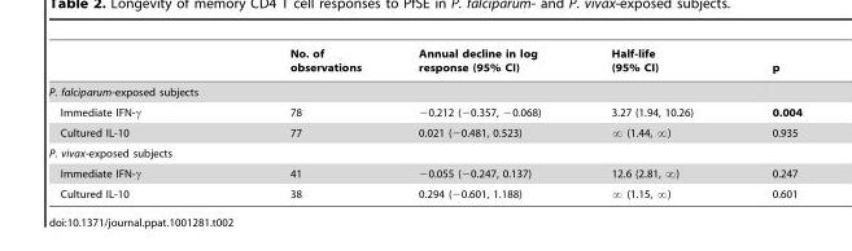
<table><thead><tr><td></td><td>No. of observations</td><td>Annual decline in log response (95% CI)</td><td>Half-life (95% CI)</td><td>p</td></tr></thead><tbody><tr><td colspan="5">P. falciparum-exposed subjects</td></tr><tr><td>Immediate IFN-γ</td><td>78</td><td>−0.212 (−0.357, −0.068)</td><td>3.27 (1.94, 10.26)</td><td>0.004</td></tr><tr><td>Cultured IL-10</td><td>77</td><td>0.021 (−0.481, 0.523)</td><td>? (1.44, ?)</td><td>0.935</td></tr><tr><td colspan="5">P. vivax-exposed subjects</td></tr><tr><td>Immediate IFN-γ</td><td>41</td><td>−0.055 (−0.247, 0.137)</td><td>12.6 (2.81, ?)</td><td>0.247</td></tr><tr><td>Cultured IL-10</td><td>38</td><td>0.294 (−0.601, 1.188)</td><td>? (1.15, ?)</td><td>0.601</td></tr></tbody></table>